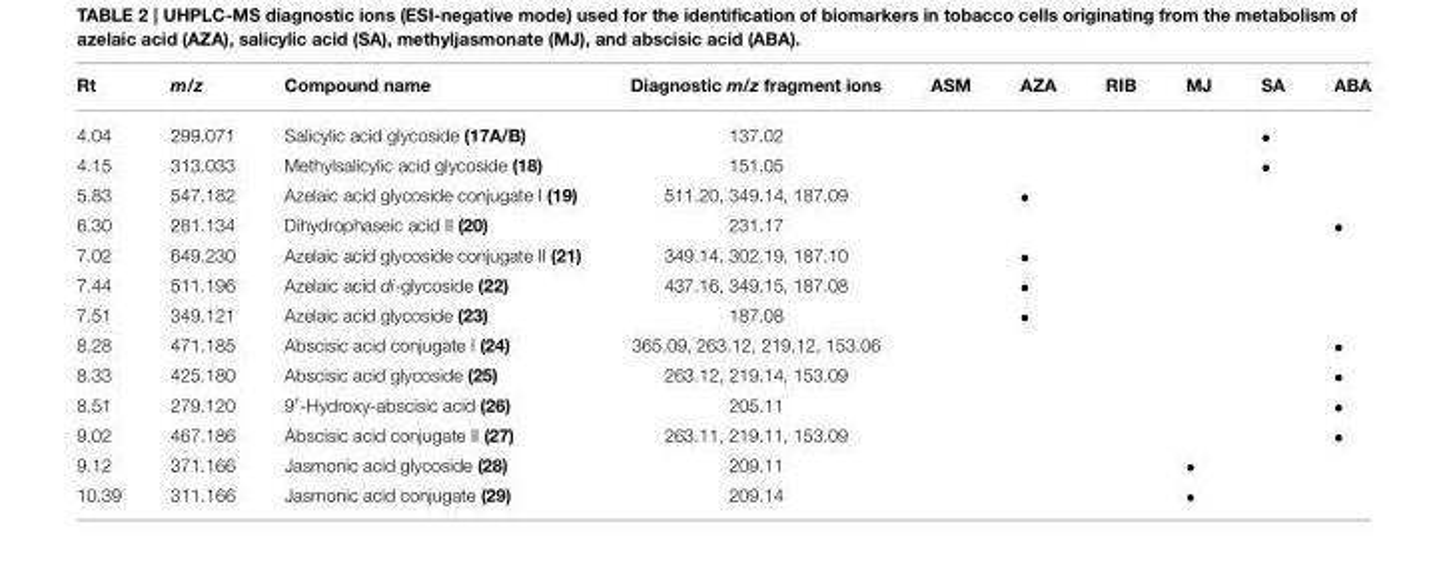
<table><thead><tr><td>Rt</td><td>m/z</td><td>Compound name</td><td>Diagnostic m/z fragment ions</td><td>ASM</td><td>AZA</td><td>RIB</td><td>MJ</td><td>SA</td><td>ABA</td></tr></thead><tbody><tr><td>4.04</td><td>299.071</td><td>Salicylic acid glycoside (17A/B)</td><td>137.02</td><td></td><td></td><td></td><td></td><td>•</td><td></td></tr><tr><td>4.15</td><td>313.033</td><td>Methylsalicylic acid glycoside (18)</td><td>151.05</td><td></td><td></td><td></td><td></td><td>•</td><td></td></tr><tr><td>5.83</td><td>547.182</td><td>Azelaic acid glycoside conjugate I (19)</td><td>511.20, 349.14, 187.09</td><td></td><td>•</td><td></td><td></td><td></td><td></td></tr><tr><td>6.30</td><td>281.134</td><td>Dihydrophaseic acid II (20)</td><td>231.17</td><td></td><td></td><td></td><td></td><td></td><td>•</td></tr><tr><td>7.02</td><td>649.230</td><td>Azelaic acid glycoside conjugate II (21)</td><td>349.14, 302.19, 187.10</td><td></td><td>•</td><td></td><td></td><td></td><td></td></tr><tr><td>7.44</td><td>511.196</td><td>Azelaic acid di-glycoside (22)</td><td>437.16, 349.15, 187.08</td><td></td><td>•</td><td></td><td></td><td></td><td></td></tr><tr><td>7.51</td><td>349.121</td><td>Azelaic acid glycoside (23)</td><td>187.08</td><td></td><td>•</td><td></td><td></td><td></td><td></td></tr><tr><td>8.28</td><td>471.185</td><td>Abscisic acid conjugate I (24)</td><td>365.09, 263.12, 219.12, 153.06</td><td></td><td></td><td></td><td></td><td></td><td>•</td></tr><tr><td>8.33</td><td>425.180</td><td>Abscisic acid glycoside (25)</td><td>263.12, 219.14, 153.09</td><td></td><td></td><td></td><td></td><td></td><td>•</td></tr><tr><td>8.51</td><td>279.120</td><td>9′-Hydroxy-abscisic acid (26)</td><td>205.11</td><td></td><td></td><td></td><td></td><td></td><td>•</td></tr><tr><td>9.02</td><td>467.186</td><td>Abscisic acid conjugate II (27)</td><td>263.11, 219.11, 153.09</td><td></td><td></td><td></td><td></td><td></td><td>•</td></tr><tr><td>9.12</td><td>371.166</td><td>Jasmonic acid glycoside (28)</td><td>209.11</td><td></td><td></td><td></td><td>•</td><td></td><td></td></tr><tr><td>10.39</td><td>311.166</td><td>Jasmonic acid conjugate (29)</td><td>209.14</td><td></td><td></td><td></td><td>•</td><td></td><td></td></tr></tbody></table>